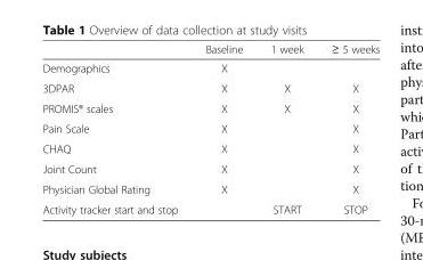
<table><thead><tr><td></td><td>Baseline</td><td>1 week</td><td>≥ 5 weeks</td></tr></thead><tbody><tr><td>Demographics</td><td>X</td><td></td><td></td></tr><tr><td>3DPAR</td><td>X</td><td>X</td><td>X</td></tr><tr><td>PROMIS® scales</td><td>X</td><td>X</td><td>X</td></tr><tr><td>Pain Scale</td><td>X</td><td></td><td>X</td></tr><tr><td>CHAQ</td><td>X</td><td></td><td>X</td></tr><tr><td>Joint Count</td><td>X</td><td></td><td>X</td></tr><tr><td>Physician Global Rating</td><td>X</td><td></td><td>X</td></tr><tr><td>Activity tracker start and stop</td><td></td><td>START</td><td>STOP</td></tr></tbody></table>